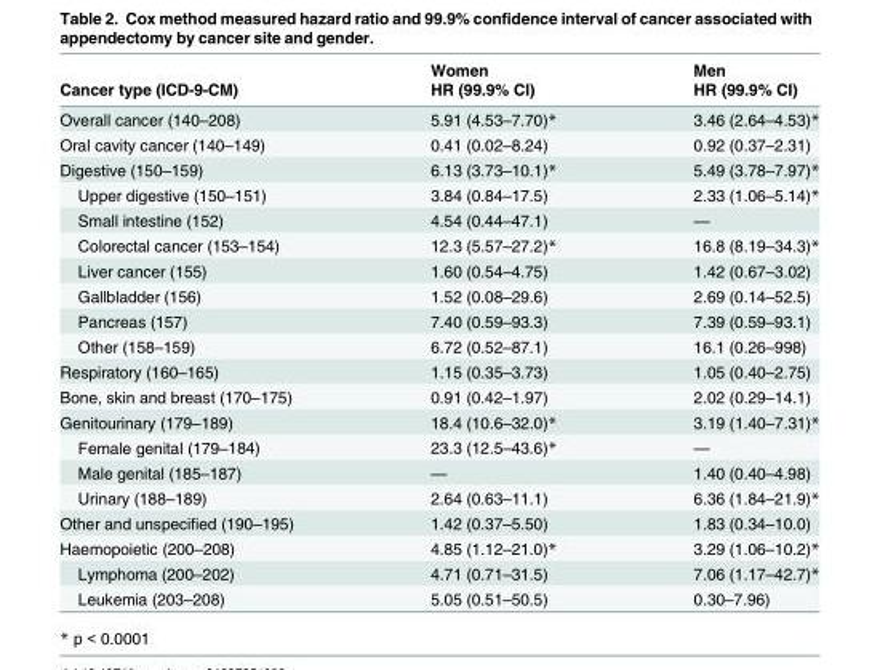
<table><thead><tr><td rowspan="2">Cancer type (ICD-9-CM)</td><td rowspan="2">Women HR (99.9% CI)</td><td rowspan="2">Men HR (99.9% CI)</td></tr><tr></tr></thead><tbody><tr><td>Overall cancer (140–208)</td><td>5.91 (4.53–7.70)*</td><td>3.46 (2.64–4.53)*</td></tr><tr><td>Oral cavity cancer (140–149)</td><td>0.41 (0.02–8.24)</td><td>0.92 (0.37–2.31)</td></tr><tr><td>Digestive (150–159)</td><td>6.13 (3.73–10.1)*</td><td>5.49 (3.78–7.97)*</td></tr><tr><td>Upper digestive (150–151)</td><td>3.84 (0.84–17.5)</td><td>2.33 (1.06–5.14)*</td></tr><tr><td>Small intestine (152)</td><td>4.54 (0.44–47.1)</td><td>—</td></tr><tr><td>Colorectal cancer (153–154)</td><td>12.3 (5.57–27.2)*</td><td>16.8 (8.19–34.3)*</td></tr><tr><td>Liver cancer (155)</td><td>1.60 (0.54–4.75)</td><td>1.42 (0.67–3.02)</td></tr><tr><td>Gallbladder (156)</td><td>1.52 (0.08–29.6)</td><td>2.69 (0.14–52.5)</td></tr><tr><td>Pancreas (157)</td><td>7.40 (0.59–93.3)</td><td>7.39 (0.59–93.1)</td></tr><tr><td>Other (158–159)</td><td>6.72 (0.52–87.1)</td><td>16.1 (0.26–998)</td></tr><tr><td>Respiratory (160–165)</td><td>1.15 (0.35–3.73)</td><td>1.05 (0.40–2.75)</td></tr><tr><td>Bone, skin and breast (170–175)</td><td>0.91 (0.42–1.97)</td><td>2.02 (0.29–14.1)</td></tr><tr><td>Genitourinary (179–189)</td><td>18.4 (10.6–32.0)*</td><td>3.19 (1.40–7.31)*</td></tr><tr><td>Female genital (179–184)</td><td>23.3 (12.5–43.6)*</td><td>—</td></tr><tr><td>Male genital (185–187)</td><td>—</td><td>1.40 (0.40–4.98)</td></tr><tr><td>Urinary (188–189)</td><td>2.64 (0.63–11.1)</td><td>6.36 (1.84–21.9)*</td></tr><tr><td>Other and unspecified (190–195)</td><td>1.42 (0.37–5.50)</td><td>1.83 (0.34–10.0)</td></tr><tr><td>Haemopoietic (200–208)</td><td>4.85 (1.12–21.0)*</td><td>3.29 (1.06–10.2)*</td></tr><tr><td>Lymphoma (200–202)</td><td>4.71 (0.71–31.5)</td><td>7.06 (1.17–42.7)*</td></tr><tr><td>Leukemia (203–208)</td><td>5.05 (0.51–50.5)</td><td>0.30–7.96)</td></tr></tbody></table>